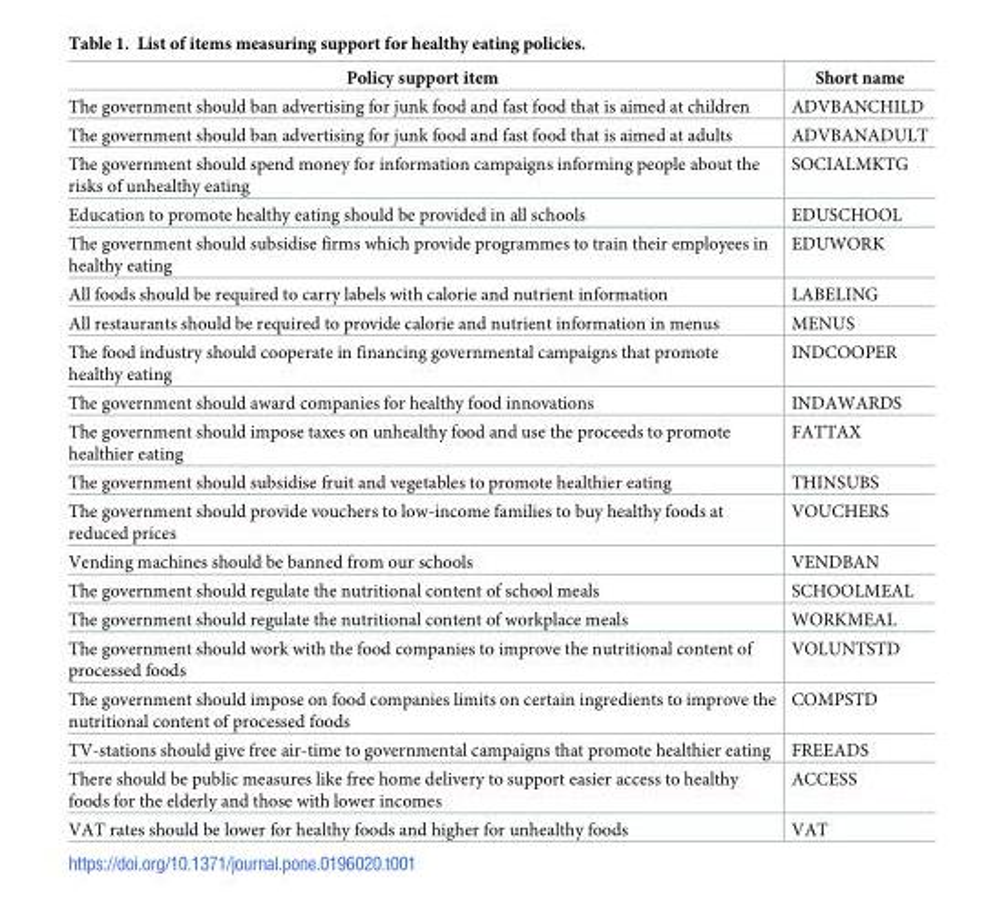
<table><thead><tr><td>Policy support item</td><td>Short name</td></tr></thead><tbody><tr><td>The government should ban advertising for junk food and fast food that is aimed at children</td><td>ADVBANCHILD</td></tr><tr><td>The government should ban advertising for junk food and fast food that is aimed at adults</td><td>ADVBANADULT</td></tr><tr><td>The government should spend money for information campaigns informing people about the risks of unhealthy eating</td><td>SOCIALMKTG</td></tr><tr><td>Education to promote healthy eating should be provided in all schools</td><td>EDUSCHOOL</td></tr><tr><td>The government should subsidise firms which provide programmes to train their employees in healthy eating</td><td>EDUWORK</td></tr><tr><td>All foods should be required to carry labels with calorie and nutrient information</td><td>LABELING</td></tr><tr><td>All restaurants should be required to provide calorie and nutrient information in menus</td><td>MENUS</td></tr><tr><td>The food industry should cooperate in financing governmental campaigns that promote healthy eating</td><td>INDCOOPER</td></tr><tr><td>The government should award companies for healthy food innovations</td><td>INDAWARDS</td></tr><tr><td>The government should impose taxes on unhealthy food and use the proceeds to promote healthier eating</td><td>FATTAX</td></tr><tr><td>The government should subsidise fruit and vegetables to promote healthier eating</td><td>THINSUBS</td></tr><tr><td>The government should provide vouchers to low-income families to buy healthy foods at reduced prices</td><td>VOUCHERS</td></tr><tr><td>Vending machines should be banned from our schools</td><td>VENDBAN</td></tr><tr><td>The government should regulate the nutritional content of school meals</td><td>SCHOOLMEAL</td></tr><tr><td>The government should regulate the nutritional content of workplace meals</td><td>WORKMEAL</td></tr><tr><td>The government should work with the food companies to improve the nutritional content of processed foods</td><td>VOLUNTSTD</td></tr><tr><td>The government should impose on food companies limits on certain ingredients to improve the nutritional content of processed foods</td><td>COMPSTD</td></tr><tr><td>TV-stations should give free air-time to governmental campaigns that promote healthier eating</td><td>FREEADS</td></tr><tr><td>There should be public measures like free home delivery to support easier access to healthy foods for the elderly and those with lower incomes</td><td>ACCESS</td></tr><tr><td>VAT rates should be lower for healthy foods and higher for unhealthy foods</td><td>VAT</td></tr></tbody></table>